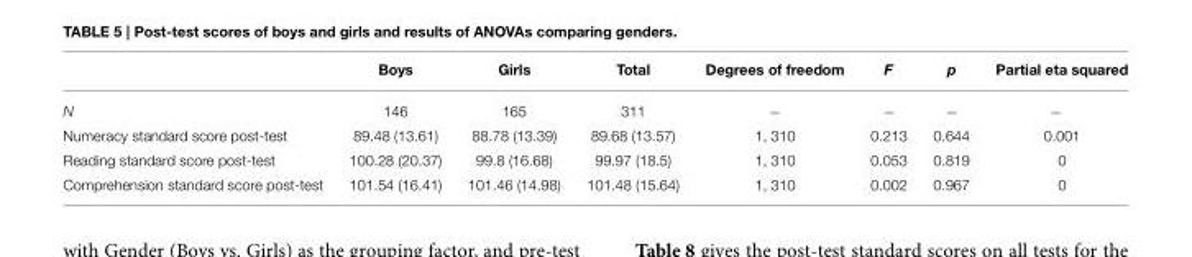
<table><thead><tr><td></td><td>Boys</td><td>Girls</td><td>Total</td><td>Degrees of freedom</td><td>F</td><td>p</td><td>Partial eta squared</td></tr></thead><tbody><tr><td>N</td><td>146</td><td>165</td><td>311</td><td>−</td><td>−</td><td>−</td><td>−</td></tr><tr><td>Numeracy standard score post-test</td><td>89.48 (13.61)</td><td>88.78 (13.39)</td><td>89.68 (13.57)</td><td>1, 310</td><td>0.213</td><td>0.644</td><td>0.001</td></tr><tr><td>Reading standard score post-test</td><td>100.28 (20.37)</td><td>99.8 (16.68)</td><td>99.97 (18.5)</td><td>1, 310</td><td>0.053</td><td>0.819</td><td>0</td></tr><tr><td>Comprehension standard score post-test</td><td>101.54 (16.41)</td><td>101.46 (14.98)</td><td>101.48 (15.64)</td><td>1, 310</td><td>0.002</td><td>0.967</td><td>0</td></tr></tbody></table>